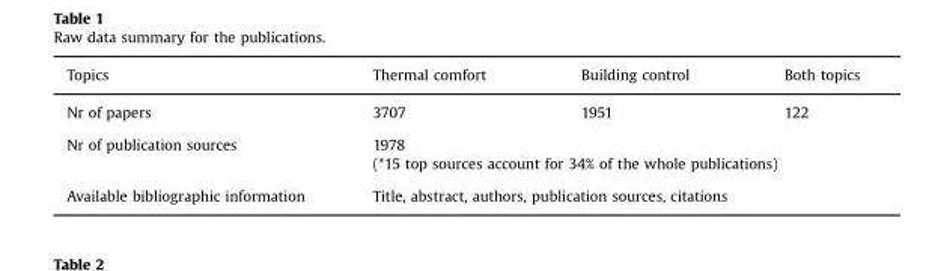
<table><thead><tr><td>Topics</td><td>Thermal comfort</td><td>Building control</td><td>Both topics</td></tr></thead><tbody><tr><td>Nr of papers</td><td>3707</td><td>1951</td><td>122</td></tr><tr><td>Nr of publication sources</td><td colspan="3">1978 (*15 top sources account for 34% of the whole publications)</td></tr><tr><td>Available bibliographic information</td><td colspan="3">Title, abstract, authors, publication sources, citations</td></tr></tbody></table>